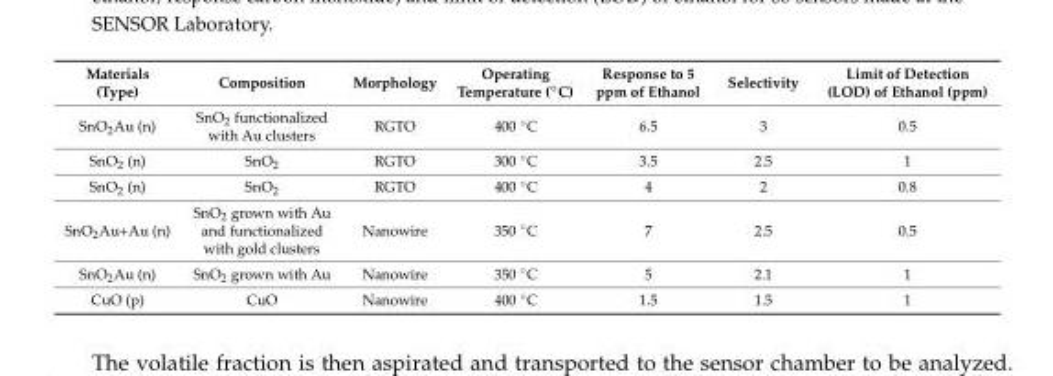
<table><thead><tr><td>Materials (Type)</td><td>Composition</td><td>Morphology</td><td>Operating Temperature (◦C)</td><td>Response to 5 ppm of Ethanol</td><td>Selectivity</td><td>Limit of Detection (LOD) of Ethanol (ppm)</td></tr></thead><tbody><tr><td>SnO<sub>2</sub>Au (n)</td><td>SnO<sub>2</sub> functionalized with Au clusters</td><td>RGTO</td><td>400 ◦C</td><td>6.5</td><td>3</td><td>0.5</td></tr><tr><td>SnO<sub>2</sub> (n)</td><td>SnO<sub>2</sub></td><td>RGTO</td><td>300 ◦C</td><td>3.5</td><td>2.5</td><td>1</td></tr><tr><td>SnO<sub>2</sub> (n)</td><td>SnO<sub>2</sub></td><td>RGTO</td><td>400 ◦C</td><td>4</td><td>2</td><td>0.8</td></tr><tr><td>SnO<sub>2</sub>Au+Au (n)</td><td>SnO<sub>2</sub> grown with Au and functionalized with gold clusters</td><td>Nanowire</td><td>350 ◦C</td><td>7</td><td>2.5</td><td>0.5</td></tr><tr><td>SnO<sub>2</sub>Au (n)</td><td>SnO<sub>2</sub> grown with Au</td><td>Nanowire</td><td>350 ◦C</td><td>5</td><td>2.1</td><td>1</td></tr><tr><td>CuO (p)</td><td>CuO</td><td>Nanowire</td><td>400 ◦C</td><td>1.5</td><td>1.5</td><td>1</td></tr></tbody></table>